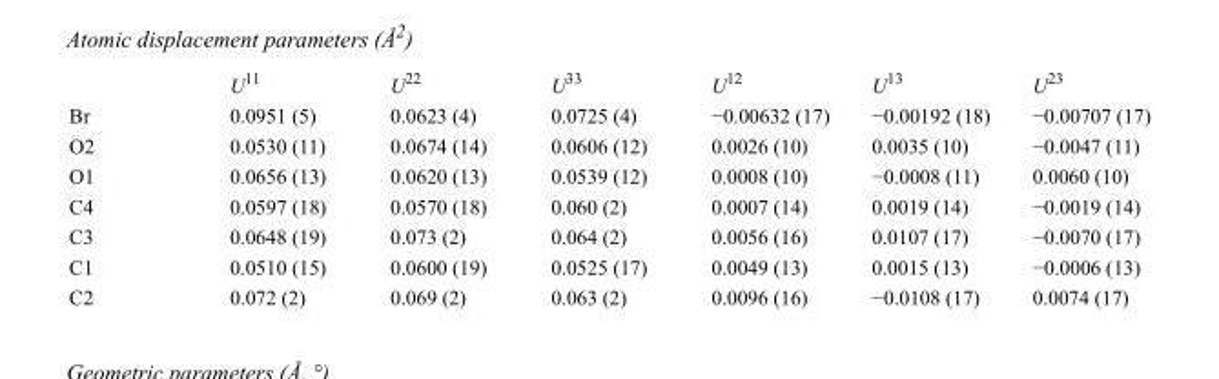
<table><thead><tr><td></td><td>U<sup>11</sup></td><td>U<sup>22</sup></td><td>U<sup>33</sup></td><td>U<sup>12</sup></td><td>U<sup>13</sup></td><td>U<sup>23</sup></td></tr></thead><tbody><tr><td>Br</td><td>0.0951 (5)</td><td>0.0623 (4)</td><td>0.0725 (4)</td><td>−0.00632 (17)</td><td>−0.00192 (18)</td><td>−0.00707 (17)</td></tr><tr><td>O2</td><td>0.0530 (11)</td><td>0.0674 (14)</td><td>0.0606 (12)</td><td>0.0026 (10)</td><td>0.0035 (10)</td><td>−0.0047 (11)</td></tr><tr><td>O1</td><td>0.0656 (13)</td><td>0.0620 (13)</td><td>0.0539 (12)</td><td>0.0008 (10)</td><td>−0.0008 (11)</td><td>0.0060 (10)</td></tr><tr><td>C4</td><td>0.0597 (18)</td><td>0.0570 (18)</td><td>0.060 (2)</td><td>0.0007 (14)</td><td>0.0019 (14)</td><td>−0.0019 (14)</td></tr><tr><td>C3</td><td>0.0648 (19)</td><td>0.073 (2)</td><td>0.064 (2)</td><td>0.0056 (16)</td><td>0.0107 (17)</td><td>−0.0070 (17)</td></tr><tr><td>C1</td><td>0.0510 (15)</td><td>0.0600 (19)</td><td>0.0525 (17)</td><td>0.0049 (13)</td><td>0.0015 (13)</td><td>−0.0006 (13)</td></tr><tr><td>C2</td><td>0.072 (2)</td><td>0.069 (2)</td><td>0.063 (2)</td><td>0.0096 (16)</td><td>−0.0108 (17)</td><td>0.0074 (17)</td></tr></tbody></table>